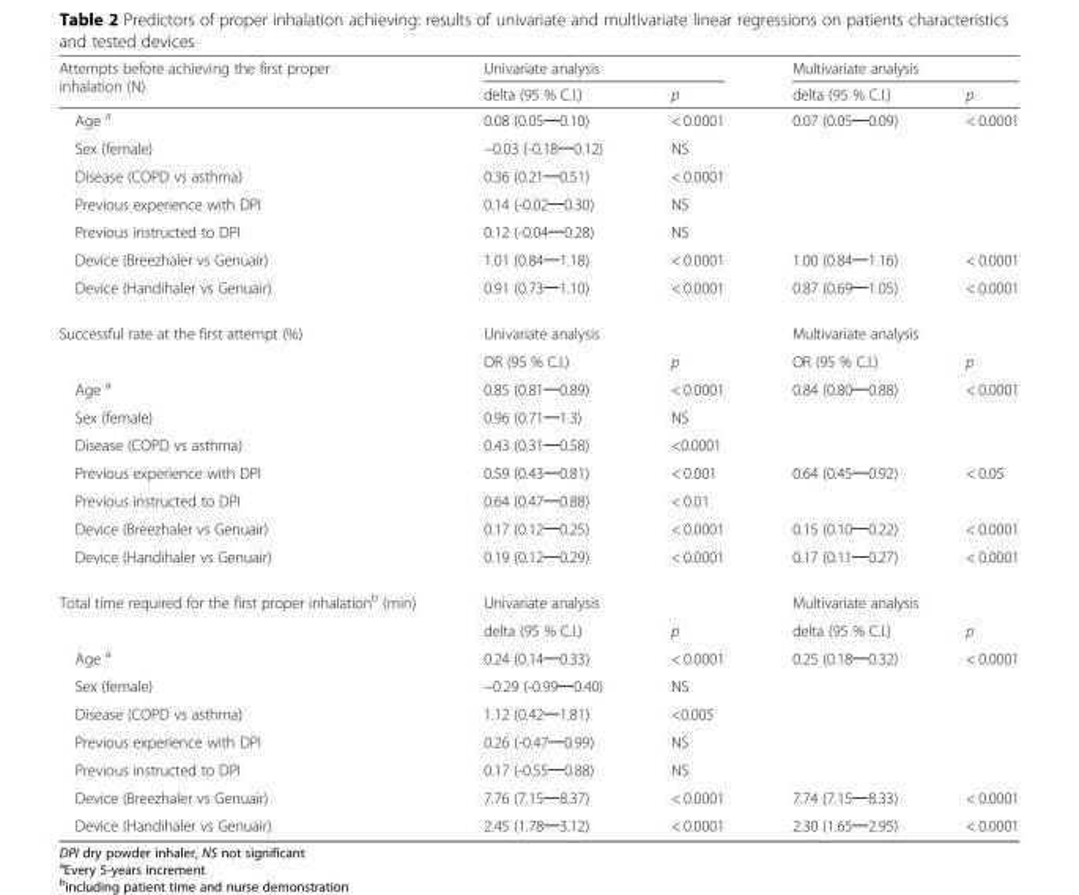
<table><thead><tr><td rowspan="2">Attempts before achieving the first proper inhalation (N)</td><td colspan="2">Univariate analysis</td><td colspan="2">Multivariate analysis</td></tr><tr><td>delta (95 % C.I.)</td><td>p</td><td>delta (95 % C.I.)</td><td>p</td></tr></thead><tbody><tr><td>Age <sup>a</sup></td><td>0.08 (0.05─0.10)</td><td>&lt; 0.0001</td><td>0.07 (0.05─0.09)</td><td>&lt; 0.0001</td></tr><tr><td>Sex (female)</td><td>−0.03 (-0.18─0.12)</td><td>NS</td><td></td><td></td></tr><tr><td>Disease (COPD vs asthma)</td><td>0.36 (0.21─0.51)</td><td>&lt; 0.0001</td><td></td><td></td></tr><tr><td>Previous experience with DPI</td><td>0.14 (-0.02─0.30)</td><td>NS</td><td></td><td></td></tr><tr><td>Previous instructed to DPI</td><td>0.12 (-0.04─0.28)</td><td>NS</td><td></td><td></td></tr><tr><td>Device (Breezhaler vs Genuair)</td><td>1.01 (0.84─1.18)</td><td>&lt; 0.0001</td><td>1.00 (0.84─1.16)</td><td>&lt; 0.0001</td></tr><tr><td>Device (Handihaler vs Genuair)</td><td>0.91 (0.73─1.10)</td><td>&lt; 0.0001</td><td>0.87 (0.69─1.05)</td><td>&lt; 0.0001</td></tr><tr><td rowspan="2">Successful rate at the first attempt (%)</td><td colspan="2">Univariate analysis</td><td colspan="2">Multivariate analysis</td></tr><tr><td>OR (95 % C.I.)</td><td>p</td><td>OR (95 % C.I.)</td><td>p</td></tr><tr><td>Age <sup>a</sup></td><td>0.85 (0.81─0.89)</td><td>&lt; 0.0001</td><td>0.84 (0.80─0.88)</td><td>&lt; 0.0001</td></tr><tr><td>Sex (female)</td><td>0.96 (0.71─1.3)</td><td>NS</td><td></td><td></td></tr><tr><td>Disease (COPD vs asthma)</td><td>0.43 (0.31─0.58)</td><td>&lt;0.0001</td><td></td><td></td></tr><tr><td>Previous experience with DPI</td><td>0.59 (0.43─0.81)</td><td>&lt; 0.001</td><td>0.64 (0.45─0.92)</td><td>&lt; 0.05</td></tr><tr><td>Previous instructed to DPI</td><td>0.64 (0.47─0.88)</td><td>&lt; 0.01</td><td></td><td></td></tr><tr><td>Device (Breezhaler vs Genuair)</td><td>0.17 (0.12─0.25)</td><td>&lt; 0.0001</td><td>0.15 (0.10─0.22)</td><td>&lt; 0.0001</td></tr><tr><td>Device (Handihaler vs Genuair)</td><td>0.19 (0.12─0.29)</td><td>&lt; 0.0001</td><td>0.17 (0.11─0.27)</td><td>&lt; 0.0001</td></tr><tr><td rowspan="2">Total time required for the first proper inhalation<sup>b</sup> (min)</td><td colspan="2">Univariate analysis</td><td colspan="2">Multivariate analysis</td></tr><tr><td>delta (95 % C.I.)</td><td>p</td><td>delta (95 % C.I.)</td><td>p</td></tr><tr><td>Age <sup>a</sup></td><td>0.24 (0.14─0.33)</td><td>&lt; 0.0001</td><td>0.25 (0.18─0.32)</td><td>&lt; 0.0001</td></tr><tr><td>Sex (female)</td><td>−0.29 (-0.99─0.40)</td><td>NS</td><td></td><td></td></tr><tr><td>Disease (COPD vs asthma)</td><td>1.12 (0.42─1.81)</td><td>&lt;0.005</td><td></td><td></td></tr><tr><td>Previous experience with DPI</td><td>0.26 (-0.47─0.99)</td><td>NS</td><td></td><td></td></tr><tr><td>Previous instructed to DPI</td><td>0.17 (-0.55─0.88)</td><td>NS</td><td></td><td></td></tr><tr><td>Device (Breezhaler vs Genuair)</td><td>7.76 (7.15─8.37)</td><td>&lt; 0.0001</td><td>7.74 (7.15─8.33)</td><td>&lt; 0.0001</td></tr><tr><td>Device (Handihaler vs Genuair)</td><td>2.45 (1.78─3.12)</td><td>&lt; 0.0001</td><td>2.30 (1.65─2.95)</td><td>&lt; 0.0001</td></tr></tbody></table>